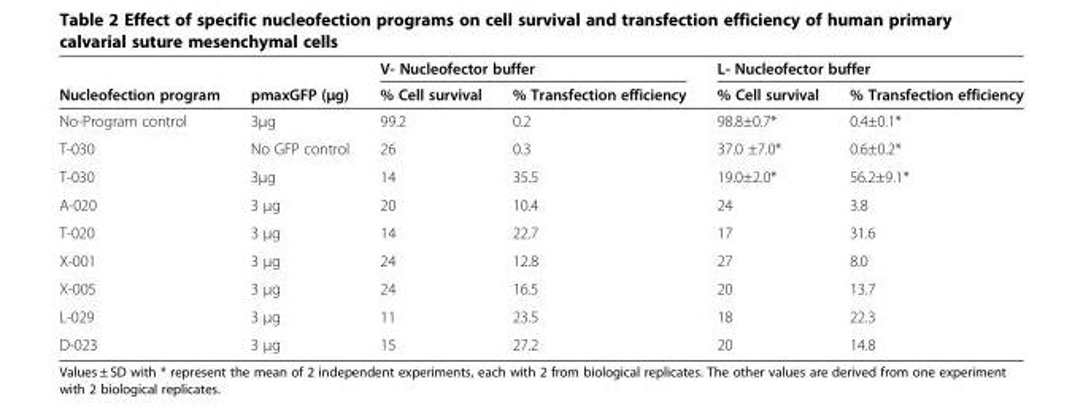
<table><thead><tr><td rowspan="2">Nucleofection program</td><td rowspan="2">pmaxGFP (μg)</td><td colspan="2">V- Nucleofector buffer</td><td colspan="2">L- Nucleofector buffer</td></tr><tr><td>% Cell survival</td><td>% Transfection efficiency</td><td>% Cell survival</td><td>% Transfection efficiency</td></tr></thead><tbody><tr><td>No-Program control</td><td>3μg</td><td>99.2</td><td>0.2</td><td>98.8±0.7*</td><td>0.4±0.1*</td></tr><tr><td>T-030</td><td>No GFP control</td><td>26</td><td>0.3</td><td>37.0 ±7.0*</td><td>0.6±0.2*</td></tr><tr><td>T-030</td><td>3μg</td><td>14</td><td>35.5</td><td>19.0±2.0*</td><td>56.2±9.1*</td></tr><tr><td>A-020</td><td>3 μg</td><td>20</td><td>10.4</td><td>24</td><td>3.8</td></tr><tr><td>T-020</td><td>3 μg</td><td>14</td><td>22.7</td><td>17</td><td>31.6</td></tr><tr><td>X-001</td><td>3 μg</td><td>24</td><td>12.8</td><td>27</td><td>8.0</td></tr><tr><td>X-005</td><td>3 μg</td><td>24</td><td>16.5</td><td>20</td><td>13.7</td></tr><tr><td>L-029</td><td>3 μg</td><td>11</td><td>23.5</td><td>18</td><td>22.3</td></tr><tr><td>D-023</td><td>3 μg</td><td>15</td><td>27.2</td><td>20</td><td>14.8</td></tr></tbody></table>